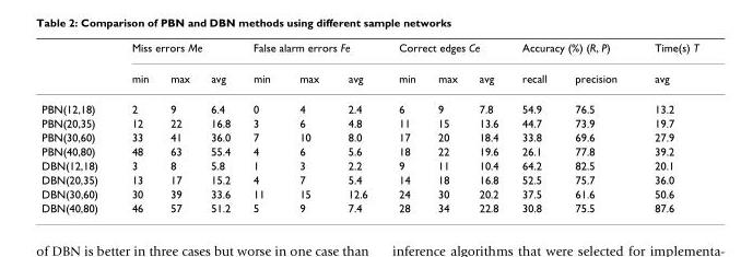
<table><thead><tr><td rowspan="2"></td><td colspan="3">Miss errors Me</td><td colspan="3">False alarm errors Fe</td><td colspan="3">Correct edges Ce</td><td colspan="2">Accuracy (%) (R, P)</td><td rowspan="2">Time(s) T avg</td></tr><tr><td>min</td><td>max</td><td>avg</td><td>min</td><td>max</td><td>avg</td><td>min</td><td>max</td><td>avg</td><td>recall</td><td>precision</td></tr></thead><tbody><tr><td>PBN(12,18)</td><td>2</td><td>9</td><td>6.4</td><td>0</td><td>4</td><td>2.4</td><td>6</td><td>9</td><td>7.8</td><td>54.9</td><td>76.5</td><td>13.2</td></tr><tr><td>PBN(20,35)</td><td>12</td><td>22</td><td>16.8</td><td>3</td><td>6</td><td>4.8</td><td>11</td><td>15</td><td>13.6</td><td>44.7</td><td>73.9</td><td>19.7</td></tr><tr><td>PBN(30,60)</td><td>33</td><td>41</td><td>36.0</td><td>7</td><td>10</td><td>8.0</td><td>17</td><td>20</td><td>18.4</td><td>33.8</td><td>69.6</td><td>27.9</td></tr><tr><td>PBN(40,80)</td><td>48</td><td>63</td><td>55.4</td><td>4</td><td>6</td><td>5.6</td><td>18</td><td>22</td><td>19.6</td><td>26.1</td><td>77.8</td><td>39.2</td></tr><tr><td>DBN(12,18)</td><td>3</td><td>8</td><td>5.8</td><td>1</td><td>3</td><td>2.2</td><td>9</td><td>11</td><td>10.4</td><td>64.2</td><td>82.5</td><td>20.1</td></tr><tr><td>DBN(20,35)</td><td>13</td><td>17</td><td>15.2</td><td>4</td><td>7</td><td>5.4</td><td>14</td><td>18</td><td>16.8</td><td>52.5</td><td>75.7</td><td>36.0</td></tr><tr><td>DBN(30,60)</td><td>30</td><td>39</td><td>33.6</td><td>11</td><td>15</td><td>12.6</td><td>24</td><td>30</td><td>20.2</td><td>37.5</td><td>61.6</td><td>50.6</td></tr><tr><td>DBN(40,80)</td><td>46</td><td>57</td><td>51.2</td><td>5</td><td>9</td><td>7.4</td><td>28</td><td>34</td><td>22.8</td><td>30.8</td><td>75.5</td><td>87.6</td></tr></tbody></table>